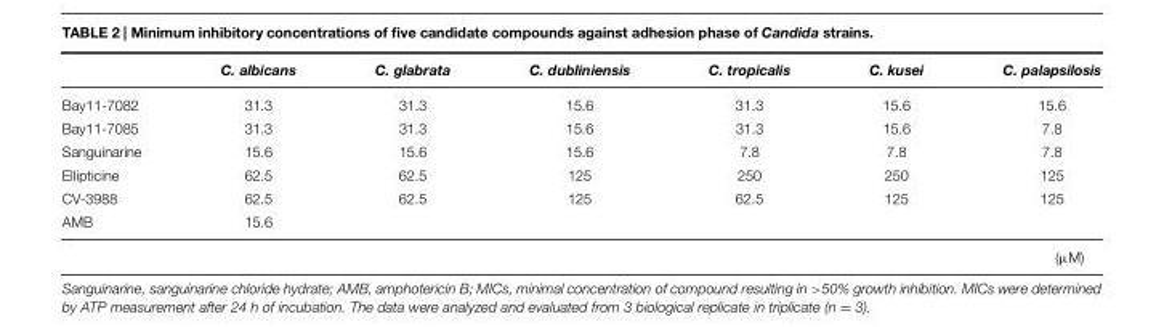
<table><thead><tr><td></td><td>C. albicans</td><td>C. glabrata</td><td>C. dubliniensis</td><td>C. tropicalis</td><td>C. kusei</td><td>C. palapsilosis</td></tr></thead><tbody><tr><td>Bay11-7082</td><td>31.3</td><td>31.3</td><td>15.6</td><td>31.3</td><td>15.6</td><td>15.6</td></tr><tr><td>Bay11-7085</td><td>31.3</td><td>31.3</td><td>15.6</td><td>31.3</td><td>15.6</td><td>7.8</td></tr><tr><td>Sanguinarine</td><td>15.6</td><td>15.6</td><td>15.6</td><td>7.8</td><td>7.8</td><td>7.8</td></tr><tr><td>Ellipticine</td><td>62.5</td><td>62.5</td><td>125</td><td>250</td><td>250</td><td>125</td></tr><tr><td>CV-3988</td><td>62.5</td><td>62.5</td><td>125</td><td>62.5</td><td>125</td><td>125</td></tr><tr><td rowspan="2">AMB</td><td>15.6</td><td></td><td></td><td></td><td></td><td></td></tr><tr><td></td><td></td><td></td><td></td><td></td><td>(μM)</td></tr></tbody></table>